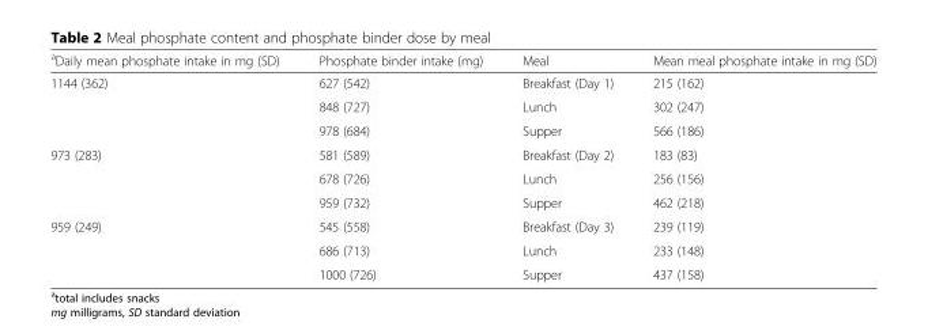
<table><thead><tr><td><sup>a</sup>Daily mean phosphate intake in mg (SD)</td><td>Phosphate binder intake (mg)</td><td>Meal</td><td>Mean meal phosphate intake in mg (SD)</td></tr></thead><tbody><tr><td rowspan="3">1144 (362)</td><td>627 (542)</td><td>Breakfast (Day 1)</td><td>215 (162)</td></tr><tr><td>848 (727)</td><td>Lunch</td><td>302 (247)</td></tr><tr><td>978 (684)</td><td>Supper</td><td>566 (186)</td></tr><tr><td rowspan="3">973 (283)</td><td>581 (589)</td><td>Breakfast (Day 2)</td><td>183 (83)</td></tr><tr><td>678 (726)</td><td>Lunch</td><td>256 (156)</td></tr><tr><td>959 (732)</td><td>Supper</td><td>462 (218)</td></tr><tr><td rowspan="3">959 (249)</td><td>545 (558)</td><td>Breakfast (Day 3)</td><td>239 (119)</td></tr><tr><td>686 (713)</td><td>Lunch</td><td>233 (148)</td></tr><tr><td>1000 (726)</td><td>Supper</td><td>437 (158)</td></tr></tbody></table>